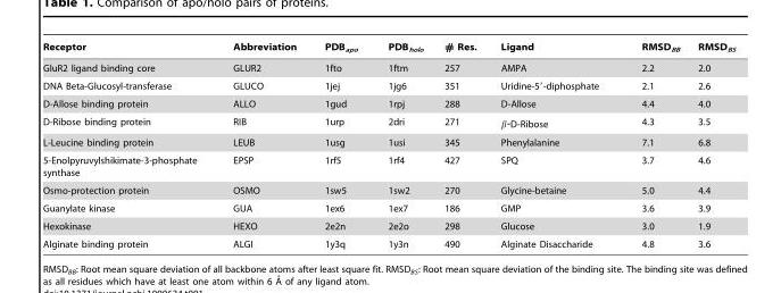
<table><thead><tr><td>Receptor</td><td>Abbreviation</td><td>PDB<sub>apo</sub></td><td>PDB<sub>holo</sub></td><td># Res.</td><td>Ligand</td><td>RMSD<sub>BB</sub></td><td>RMSD<sub>BS</sub></td></tr></thead><tbody><tr><td>GluR2 ligand binding core</td><td>GLUR2</td><td>1fto</td><td>1ftm</td><td>257</td><td>AMPA</td><td>2.2</td><td>2.0</td></tr><tr><td>DNA Beta-Glucosyl-transferase</td><td>GLUCO</td><td>1jej</td><td>1jg6</td><td>351</td><td>Uridine-5′-diphosphate</td><td>2.1</td><td>2.6</td></tr><tr><td>D-Allose binding protein</td><td>ALLO</td><td>1gud</td><td>1rpj</td><td>288</td><td>D-Allose</td><td>4.4</td><td>4.0</td></tr><tr><td>D-Ribose binding protein</td><td>RIB</td><td>1urp</td><td>2dri</td><td>271</td><td>b-D-Ribose</td><td>4.3</td><td>3.5</td></tr><tr><td>L-Leucine binding protein</td><td>LEUB</td><td>1usg</td><td>1usi</td><td>345</td><td>Phenylalanine</td><td>7.1</td><td>6.8</td></tr><tr><td>5-Enolpyruvylshikimate-3-phosphate synthase</td><td>EPSP</td><td>1rf5</td><td>1rf4</td><td>427</td><td>SPQ</td><td>3.7</td><td>4.6</td></tr><tr><td>Osmo-protection protein</td><td>OSMO</td><td>1sw5</td><td>1sw2</td><td>270</td><td>Glycine-betaine</td><td>5.0</td><td>4.4</td></tr><tr><td>Guanylate kinase</td><td>GUA</td><td>1ex6</td><td>1ex7</td><td>186</td><td>GMP</td><td>3.6</td><td>3.9</td></tr><tr><td>Hexokinase</td><td>HEXO</td><td>2e2n</td><td>2e2o</td><td>298</td><td>Glucose</td><td>3.0</td><td>1.9</td></tr><tr><td>Alginate binding protein</td><td>ALGI</td><td>1y3q</td><td>1y3n</td><td>490</td><td>Alginate Disaccharide</td><td>4.8</td><td>3.6</td></tr></tbody></table>